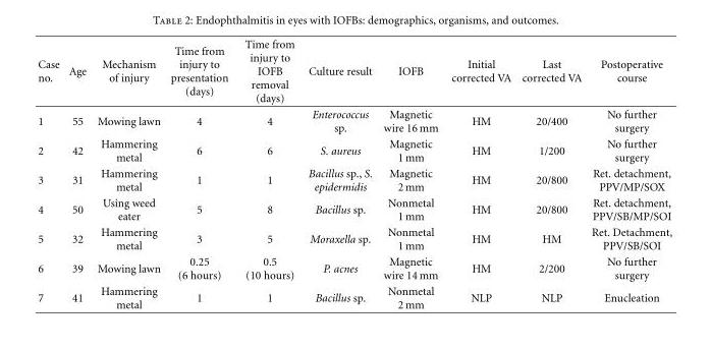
<table><thead><tr><td>Case no.</td><td>Age</td><td>Mechanism of injury</td><td>Time from injury to presentation (days)</td><td>Time from injury to IOFB removal (days)</td><td>Culture result</td><td>IOFB</td><td>Initial corrected VA</td><td>Last corrected VA</td><td>Postoperative course</td></tr></thead><tbody><tr><td>1</td><td>55</td><td>Mowing lawn</td><td>4</td><td>4</td><td>Enterococcus sp.</td><td>Magnetic wire 16 mm</td><td>HM</td><td>20/400</td><td>No further surgery</td></tr><tr><td>2</td><td>42</td><td>Hammering metal</td><td>6</td><td>6</td><td>S. aureus</td><td>Magnetic 1 mm</td><td>HM</td><td>1/200</td><td>No further surgery</td></tr><tr><td>3</td><td>31</td><td>Hammering metal</td><td>1</td><td>1</td><td>Bacillus sp., S. epidermidis</td><td>Magnetic 2 mm</td><td>HM</td><td>20/800</td><td>Ret. detachment, PPV/MP/SOX</td></tr><tr><td>4</td><td>50</td><td>Using weed eater</td><td>5</td><td>8</td><td>Bacillus sp.</td><td>Nonmetal 1 mm</td><td>HM</td><td>20/800</td><td>Ret. detachment, PPV/SB/MP/SOI</td></tr><tr><td>5</td><td>32</td><td>Hammering metal</td><td>3</td><td>5</td><td>Moraxella sp.</td><td>Nonmetal 1 mm</td><td>HM</td><td>HM</td><td>Ret. Detachment, PPV/SB/SOI</td></tr><tr><td>6</td><td>39</td><td>Mowing lawn</td><td>0.25 (6 hours)</td><td>0.5 (10 hours)</td><td>P. acnes</td><td>Magnetic wire 14 mm</td><td>HM</td><td>2/200</td><td>No further surgery</td></tr><tr><td>7</td><td>41</td><td>Hammering metal</td><td>1</td><td>1</td><td>Bacillus sp.</td><td>Nonmetal 2 mm</td><td>NLP</td><td>NLP</td><td>Enucleation</td></tr></tbody></table>